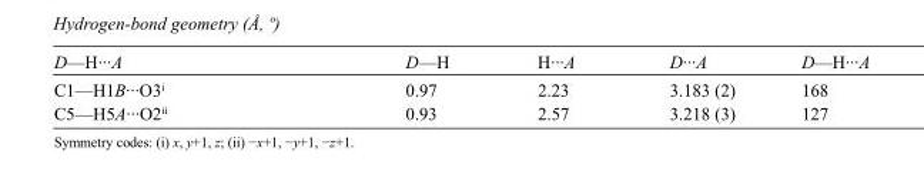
<table><tbody><tr><td>D—H···A</td><td>D—H</td><td>H···A</td><td>D···A</td><td>D—H···A</td></tr><tr><td>C1—H1B···O3<sup>i</sup></td><td>0.97</td><td>2.23</td><td>3.183 (2)</td><td>168</td></tr><tr><td>C5—H5A···O2<sup>ii</sup></td><td>0.93</td><td>2.57</td><td>3.218 (3)</td><td>127</td></tr></tbody></table>